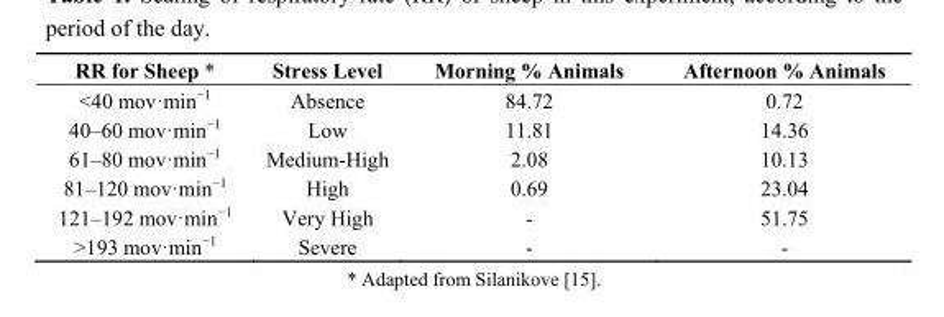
<table><thead><tr><td>RR for Sheep *</td><td>Stress Level</td><td>Morning % Animals</td><td>Afternoon % Animals</td></tr></thead><tbody><tr><td>&lt;40 mov·min<sup>−1</sup></td><td>Absence</td><td>84.72</td><td>0.72</td></tr><tr><td>40–60 mov·min<sup>−1</sup></td><td>Low</td><td>11.81</td><td>14.36</td></tr><tr><td>61–80 mov·min<sup>−1</sup></td><td>Medium-High</td><td>2.08</td><td>10.13</td></tr><tr><td>81–120 mov·min<sup>−1</sup></td><td>High</td><td>0.69</td><td>23.04</td></tr><tr><td>121–192 mov·min<sup>−1</sup></td><td>Very High</td><td>-</td><td>51.75</td></tr><tr><td>&gt;193 mov·min<sup>−1</sup></td><td>Severe</td><td>-</td><td>-</td></tr></tbody></table>